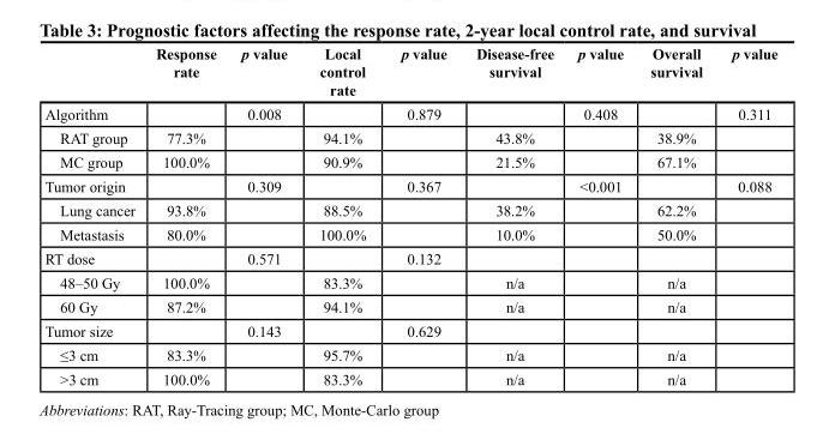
<table><thead><tr><td></td><td>Response rate</td><td>p value</td><td>Local control rate</td><td>p value</td><td>Disease-free survival</td><td>p value</td><td>Overall survival</td><td>p value</td></tr></thead><tbody><tr><td>Algorithm</td><td></td><td>0.008</td><td></td><td>0.879</td><td></td><td>0.408</td><td></td><td>0.311</td></tr><tr><td>RAT group</td><td>77.3%</td><td></td><td>94.1%</td><td></td><td>43.8%</td><td></td><td>38.9%</td><td></td></tr><tr><td>MC group</td><td>100.0%</td><td></td><td>90.9%</td><td></td><td>21.5%</td><td></td><td>67.1%</td><td></td></tr><tr><td>Tumor origin</td><td></td><td>0.309</td><td></td><td>0.367</td><td></td><td>&lt;0.001</td><td></td><td>0.088</td></tr><tr><td>Lung cancer</td><td>93.8%</td><td></td><td>88.5%</td><td></td><td>38.2%</td><td></td><td>62.2%</td><td></td></tr><tr><td>Metastasis</td><td>80.0%</td><td></td><td>100.0%</td><td></td><td>10.0%</td><td></td><td>50.0%</td><td></td></tr><tr><td>RT dose</td><td></td><td>0.571</td><td></td><td>0.132</td><td></td><td></td><td></td><td></td></tr><tr><td>48–50 Gy</td><td>100.0%</td><td></td><td>83.3%</td><td></td><td>n/a</td><td></td><td>n/a</td><td></td></tr><tr><td>60 Gy</td><td>87.2%</td><td></td><td>94.1%</td><td></td><td>n/a</td><td></td><td>n/a</td><td></td></tr><tr><td>Tumor size</td><td></td><td>0.143</td><td></td><td>0.629</td><td></td><td></td><td></td><td></td></tr><tr><td>≤3 cm</td><td>83.3%</td><td></td><td>95.7%</td><td></td><td>n/a</td><td></td><td>n/a</td><td></td></tr><tr><td>&gt;3 cm</td><td>100.0%</td><td></td><td>83.3%</td><td></td><td>n/a</td><td></td><td>n/a</td><td></td></tr></tbody></table>